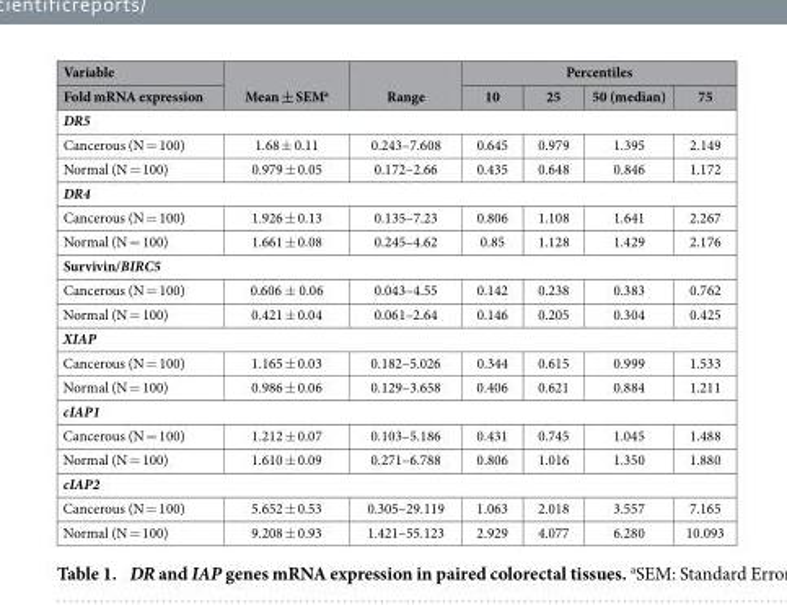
<table><thead><tr><td rowspan="2">Variable Fold mRNA expression</td><td rowspan="2">Mean ± SEM<sup>a</sup></td><td rowspan="2">Range</td><td colspan="4">Percentiles</td></tr><tr><td>10</td><td>25</td><td>50 (median)</td><td>75</td></tr></thead><tbody><tr><td colspan="7">DR5</td></tr><tr><td>Cancerous (N = 100)</td><td>1.68 ± 0.11</td><td>0.243–7.608</td><td>0.645</td><td>0.979</td><td>1.395</td><td>2.149</td></tr><tr><td>Normal (N = 100)</td><td>0.979 ± 0.05</td><td>0.172–2.66</td><td>0.435</td><td>0.648</td><td>0.846</td><td>1.172</td></tr><tr><td colspan="7">DR4</td></tr><tr><td>Cancerous (N = 100)</td><td>1.926 ± 0.13</td><td>0.135–7.23</td><td>0.806</td><td>1.108</td><td>1.641</td><td>2.267</td></tr><tr><td>Normal (N = 100)</td><td>1.661 ± 0.08</td><td>0.245–4.62</td><td>0.85</td><td>1.128</td><td>1.429</td><td>2.176</td></tr><tr><td colspan="7">Survivin/BIRC5</td></tr><tr><td>Cancerous (N = 100)</td><td>0.606 ± 0.06</td><td>0.043–4.55</td><td>0.142</td><td>0.238</td><td>0.383</td><td>0.762</td></tr><tr><td>Normal (N = 100)</td><td>0.421 ± 0.04</td><td>0.061–2.64</td><td>0.146</td><td>0.205</td><td>0.304</td><td>0.425</td></tr><tr><td colspan="7">XIAP</td></tr><tr><td>Cancerous (N = 100)</td><td>1.165 ± 0.03</td><td>0.182–5.026</td><td>0.344</td><td>0.615</td><td>0.999</td><td>1.533</td></tr><tr><td>Normal (N = 100)</td><td>0.986 ± 0.06</td><td>0.129–3.658</td><td>0.406</td><td>0.621</td><td>0.884</td><td>1.211</td></tr><tr><td colspan="7">cIAP1</td></tr><tr><td>Cancerous (N = 100)</td><td>1.212 ± 0.07</td><td>0.103–5.186</td><td>0.431</td><td>0.745</td><td>1.045</td><td>1.488</td></tr><tr><td>Normal (N = 100)</td><td>1.610 ± 0.09</td><td>0.271–6.788</td><td>0.806</td><td>1.016</td><td>1.350</td><td>1.880</td></tr><tr><td colspan="7">cIAP2</td></tr><tr><td>Cancerous (N = 100)</td><td>5.652 ± 0.53</td><td>0.305–29.119</td><td>1.063</td><td>2.018</td><td>3.557</td><td>7.165</td></tr><tr><td>Normal (N = 100)</td><td>9.208 ± 0.93</td><td>1.421–55.123</td><td>2.929</td><td>4.077</td><td>6.280</td><td>10.093</td></tr></tbody></table>